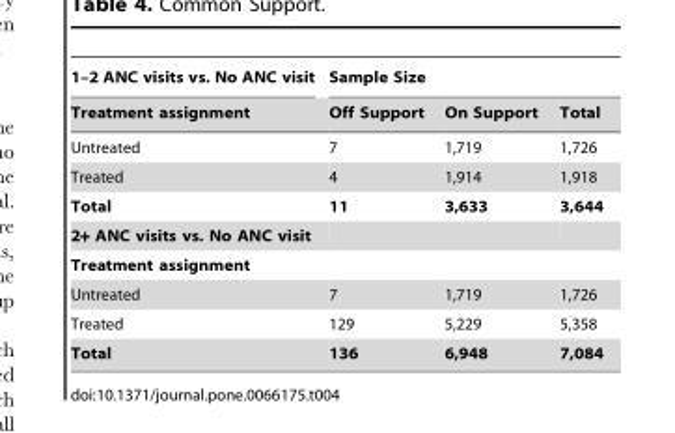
<table><thead><tr><td rowspan="2">1–2 ANC visits vs. No ANC visit Treatment assignment</td><td colspan="3">Sample Size</td></tr><tr><td>Off Support</td><td>On Support</td><td>Total</td></tr></thead><tbody><tr><td>Untreated</td><td>7</td><td>1,719</td><td>1,726</td></tr><tr><td>Treated</td><td>4</td><td>1,914</td><td>1,918</td></tr><tr><td>Total</td><td>11</td><td>3,633</td><td>3,644</td></tr><tr><td colspan="4">2+ ANC visits vs. No ANC visit</td></tr><tr><td colspan="4">Treatment assignment</td></tr><tr><td>Untreated</td><td>7</td><td>1,719</td><td>1,726</td></tr><tr><td>Treated</td><td>129</td><td>5,229</td><td>5,358</td></tr><tr><td>Total</td><td>136</td><td>6,948</td><td>7,084</td></tr></tbody></table>